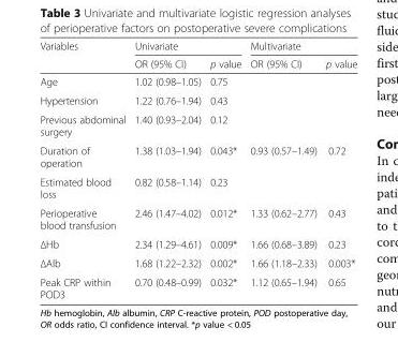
<table><thead><tr><td rowspan="2">Variables</td><td colspan="2">Univariate</td><td colspan="2">Multivariate</td></tr><tr><td>OR (95% CI)</td><td>p value</td><td>OR (95% CI)</td><td>p value</td></tr></thead><tbody><tr><td>Age</td><td>1.02 (0.98–1.05)</td><td>0.75</td><td></td><td></td></tr><tr><td>Hypertension</td><td>1.22 (0.76–1.94)</td><td>0.43</td><td></td><td></td></tr><tr><td>Previous abdominal surgery</td><td>1.40 (0.93–2.04)</td><td>0.12</td><td></td><td></td></tr><tr><td>Duration of operation</td><td>1.38 (1.03–1.94)</td><td>0.043*</td><td>0.93 (0.57–1.49)</td><td>0.72</td></tr><tr><td>Estimated blood loss</td><td>0.82 (0.58–1.14)</td><td>0.23</td><td></td><td></td></tr><tr><td>Perioperative blood transfusion</td><td>2.46 (1.47–4.02)</td><td>0.012*</td><td>1.33 (0.62–2.77)</td><td>0.43</td></tr><tr><td>ΔHb</td><td>2.34 (1.29–4.61)</td><td>0.009*</td><td>1.66 (0.68–3.89)</td><td>0.23</td></tr><tr><td>ΔAlb</td><td>1.68 (1.22–2.32)</td><td>0.002*</td><td>1.66 (1.18–2.33)</td><td>0.003*</td></tr><tr><td>Peak CRP within POD3</td><td>0.70 (0.48–0.99)</td><td>0.032*</td><td>1.12 (0.65–1.94)</td><td>0.65</td></tr></tbody></table>